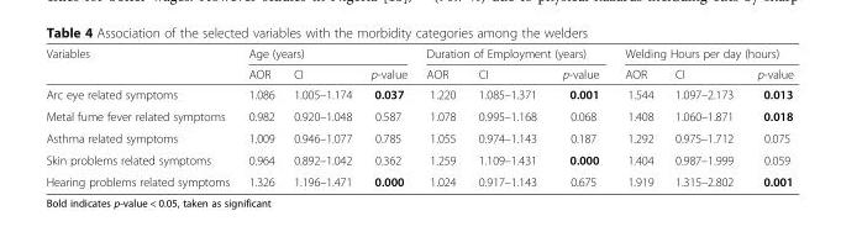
<table><thead><tr><td rowspan="2">Variables</td><td colspan="3">Age (years)</td><td colspan="3">Duration of Employment (years)</td><td colspan="3">Welding Hours per day (hours)</td></tr><tr><td>AOR</td><td>CI</td><td>p-value</td><td>AOR</td><td>CI</td><td>p-value</td><td>AOR</td><td>CI</td><td>p-value</td></tr></thead><tbody><tr><td>Arc eye related symptoms</td><td>1.086</td><td>1.005–1.174</td><td>0.037</td><td>1.220</td><td>1.085–1.371</td><td>0.001</td><td>1.544</td><td>1.097–2.173</td><td>0.013</td></tr><tr><td>Metal fume fever related symptoms</td><td>0.982</td><td>0.920–1.048</td><td>0.587</td><td>1.078</td><td>0.995–1.168</td><td>0.068</td><td>1.408</td><td>1.060–1.871</td><td>0.018</td></tr><tr><td>Asthma related symptoms</td><td>1.009</td><td>0.946–1.077</td><td>0.785</td><td>1.055</td><td>0.974–1.143</td><td>0.187</td><td>1.292</td><td>0.975–1.712</td><td>0.075</td></tr><tr><td>Skin problems related symptoms</td><td>0.964</td><td>0.892–1.042</td><td>0.362</td><td>1.259</td><td>1.109–1.431</td><td>0.000</td><td>1.404</td><td>0.987–1.999</td><td>0.059</td></tr><tr><td>Hearing problems related symptoms</td><td>1.326</td><td>1.196–1.471</td><td>0.000</td><td>1.024</td><td>0.917–1.143</td><td>0.675</td><td>1.919</td><td>1.315–2.802</td><td>0.001</td></tr></tbody></table>